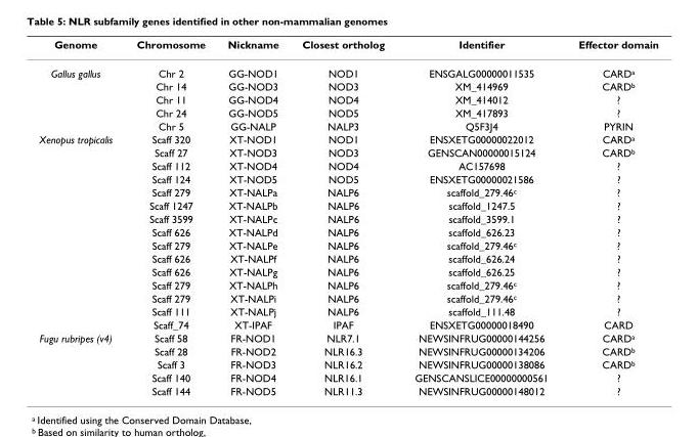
<table><thead><tr><td>Genome</td><td>Chromosome</td><td>Nickname</td><td>Closest ortholog</td><td>Identifier</td><td>Effector domain</td></tr></thead><tbody><tr><td rowspan="5">Gallus gallus</td><td>Chr 2</td><td>GG-NOD1</td><td>NOD1</td><td>ENSGALG00000011535</td><td>CARD<sup>a</sup></td></tr><tr><td>Chr 14</td><td>GG-NOD3</td><td>NOD3</td><td>XM_414969</td><td>CARD<sup>b</sup></td></tr><tr><td>Chr 11</td><td>GG-NOD4</td><td>NOD4</td><td>XM_414012</td><td>?</td></tr><tr><td>Chr 24</td><td>GG-NOD5</td><td>NOD5</td><td>XM_417893</td><td>?</td></tr><tr><td>Chr 5</td><td>GG-NALP</td><td>NALP3</td><td>Q5F3J4</td><td>PYRIN</td></tr><tr><td rowspan="15">Xenopus tropicalis</td><td>Scaff 320</td><td>XT-NOD1</td><td>NOD1</td><td>ENSXETG00000022012</td><td>CARD<sup>a</sup></td></tr><tr><td>Scaff 27</td><td>XT-NOD3</td><td>NOD3</td><td>GENSCAN00000015124</td><td>CARD<sup>b</sup></td></tr><tr><td>Scaff 112</td><td>XT-NOD4</td><td>NOD4</td><td>AC157698</td><td>?</td></tr><tr><td>Scaff 124</td><td>XT-NOD5</td><td>NOD5</td><td>ENSXETG00000021586</td><td>?</td></tr><tr><td>Scaff 279</td><td>XT-NALPa</td><td>NALP6</td><td>scaffold_279.46<sup>c</sup></td><td>?</td></tr><tr><td>Scaff 1247</td><td>XT-NALPb</td><td>NALP6</td><td>scaffold_1247.5</td><td>?</td></tr><tr><td>Scaff 3599</td><td>XT-NALPc</td><td>NALP6</td><td>scaffold_3599.1</td><td>?</td></tr><tr><td>Scaff 626</td><td>XT-NALPd</td><td>NALP6</td><td>scaffold_626.23</td><td>?</td></tr><tr><td>Scaff 279</td><td>XT-NALPe</td><td>NALP6</td><td>scaffold_279.46<sup>c</sup></td><td>?</td></tr><tr><td>Scaff 626</td><td>XT-NALPf</td><td>NALP6</td><td>scaffold_626.24</td><td>?</td></tr><tr><td>Scaff 626</td><td>XT-NALPg</td><td>NALP6</td><td>scaffold_626.25</td><td>?</td></tr><tr><td>Scaff 279</td><td>XT-NALPh</td><td>NALP6</td><td>scaffold_279.46<sup>c</sup></td><td>?</td></tr><tr><td>Scaff 279</td><td>XT-NALPi</td><td>NALP6</td><td>scaffold_279.46<sup>c</sup></td><td>?</td></tr><tr><td>Scaff 111</td><td>XT-NALPj</td><td>NALP6</td><td>scaffold_111.48</td><td>?</td></tr><tr><td>Scaff_74</td><td>XT-IPAF</td><td>IPAF</td><td>ENSXETG00000018490</td><td>CARD</td></tr><tr><td rowspan="5">Fugu rubripes (v4)</td><td>Scaff 58</td><td>FR-NOD1</td><td>NLR7.1</td><td>NEWSINFRUG00000144256</td><td>CARD<sup>a</sup></td></tr><tr><td>Scaff 28</td><td>FR-NOD2</td><td>NLR16.3</td><td>NEWSINFRUG00000134206</td><td>CARD<sup>b</sup></td></tr><tr><td>Scaff 3</td><td>FR-NOD3</td><td>NLR16.2</td><td>NEWSINFRUG00000138086</td><td>CARD<sup>b</sup></td></tr><tr><td>Scaff 140</td><td>FR-NOD4</td><td>NLR16.1</td><td>GENSCANSLICE00000000561</td><td>?</td></tr><tr><td>Scaff 144</td><td>FR-NOD5</td><td>NLR11.3</td><td>NEWSINFRUG00000148012</td><td>?</td></tr></tbody></table>